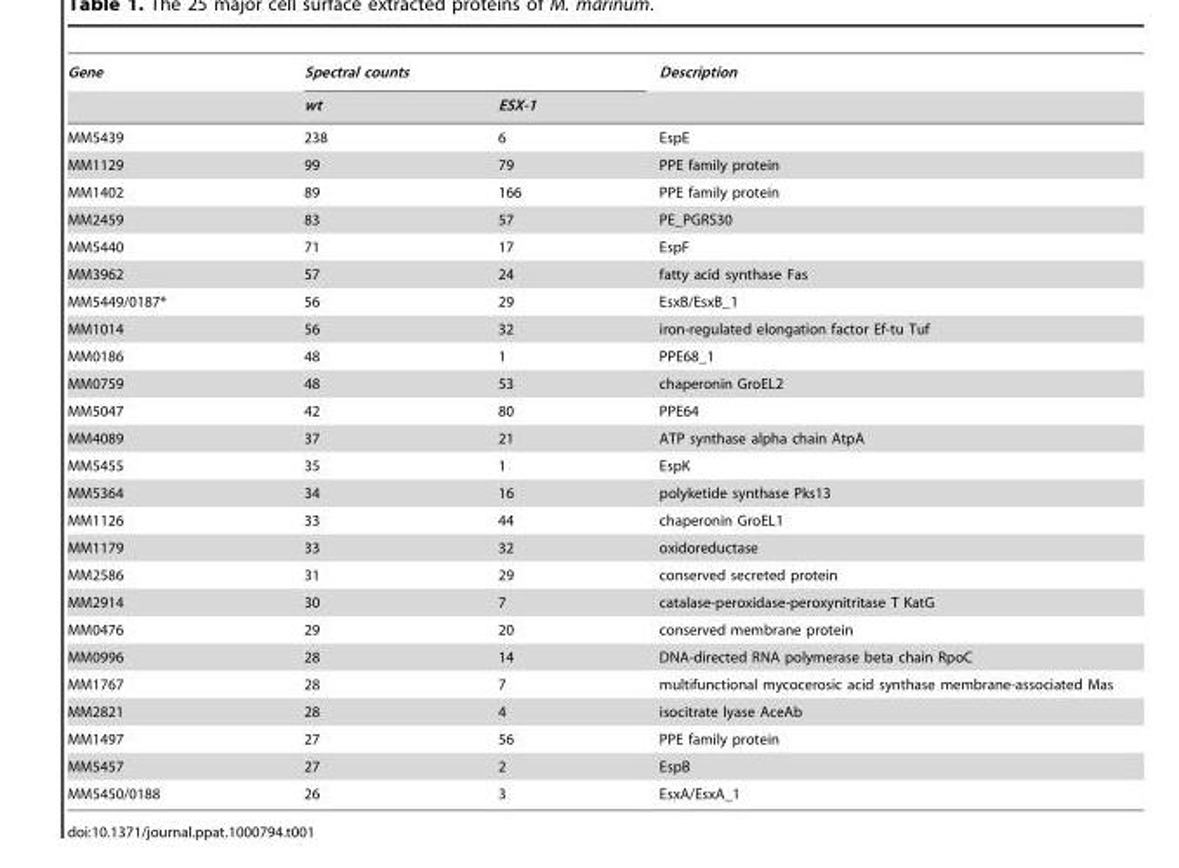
<table><thead><tr><td rowspan="2">Gene</td><td colspan="2">Spectral counts</td><td rowspan="2">Description</td></tr><tr><td>wt</td><td>ESX-1</td></tr></thead><tbody><tr><td>MM5439</td><td>238</td><td>6</td><td>EspE</td></tr><tr><td>MM1129</td><td>99</td><td>79</td><td>PPE family protein</td></tr><tr><td>MM1402</td><td>89</td><td>166</td><td>PPE family protein</td></tr><tr><td>MM2459</td><td>83</td><td>57</td><td>PE_PGRS30</td></tr><tr><td>MM5440</td><td>71</td><td>17</td><td>EspF</td></tr><tr><td>MM3962</td><td>57</td><td>24</td><td>fatty acid synthase Fas</td></tr><tr><td>MM5449/0187*</td><td>56</td><td>29</td><td>EsxB/EsxB_1</td></tr><tr><td>MM1014</td><td>56</td><td>32</td><td>iron-regulated elongation factor Ef-tu Tuf</td></tr><tr><td>MM0186</td><td>48</td><td>1</td><td>PPE68_1</td></tr><tr><td>MM0759</td><td>48</td><td>53</td><td>chaperonin GroEL2</td></tr><tr><td>MM5047</td><td>42</td><td>80</td><td>PPE64</td></tr><tr><td>MM4089</td><td>37</td><td>21</td><td>ATP synthase alpha chain AtpA</td></tr><tr><td>MM5455</td><td>35</td><td>1</td><td>EspK</td></tr><tr><td>MM5364</td><td>34</td><td>16</td><td>polyketide synthase Pks13</td></tr><tr><td>MM1126</td><td>33</td><td>44</td><td>chaperonin GroEL1</td></tr><tr><td>MM1179</td><td>33</td><td>32</td><td>oxidoreductase</td></tr><tr><td>MM2586</td><td>31</td><td>29</td><td>conserved secreted protein</td></tr><tr><td>MM2914</td><td>30</td><td>7</td><td>catalase-peroxidase-peroxynitritase T KatG</td></tr><tr><td>MM0476</td><td>29</td><td>20</td><td>conserved membrane protein</td></tr><tr><td>MM0996</td><td>28</td><td>14</td><td>DNA-directed RNA polymerase beta chain RpoC</td></tr><tr><td>MM1767</td><td>28</td><td>7</td><td>multifunctional mycocerosic acid synthase membrane-associated Mas</td></tr><tr><td>MM2821</td><td>28</td><td>4</td><td>isocitrate lyase AceAb</td></tr><tr><td>MM1497</td><td>27</td><td>56</td><td>PPE family protein</td></tr><tr><td>MM5457</td><td>27</td><td>2</td><td>EspB</td></tr><tr><td>MM5450/0188</td><td>26</td><td>3</td><td>EsxA/EsxA_1</td></tr></tbody></table>